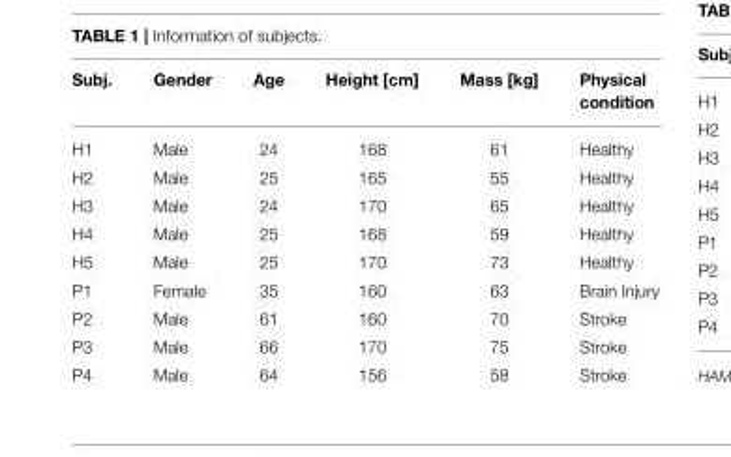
<table><thead><tr><td>Subj.</td><td>Gender</td><td>Age</td><td>Height [cm]</td><td>Mass [kg]</td><td>Physical condition</td></tr></thead><tbody><tr><td>H1</td><td>Male</td><td>24</td><td>168</td><td>61</td><td>Healthy</td></tr><tr><td>H2</td><td>Male</td><td>25</td><td>165</td><td>55</td><td>Healthy</td></tr><tr><td>H3</td><td>Male</td><td>24</td><td>170</td><td>65</td><td>Healthy</td></tr><tr><td>H4</td><td>Male</td><td>25</td><td>168</td><td>59</td><td>Healthy</td></tr><tr><td>H5</td><td>Male</td><td>25</td><td>170</td><td>73</td><td>Healthy</td></tr><tr><td>P1</td><td>Female</td><td>35</td><td>160</td><td>63</td><td>Brain Injury</td></tr><tr><td>P2</td><td>Male</td><td>61</td><td>160</td><td>70</td><td>Stroke</td></tr><tr><td>P3</td><td>Male</td><td>66</td><td>170</td><td>75</td><td>Stroke</td></tr><tr><td>P4</td><td>Male</td><td>64</td><td>156</td><td>58</td><td>Stroke</td></tr></tbody></table>